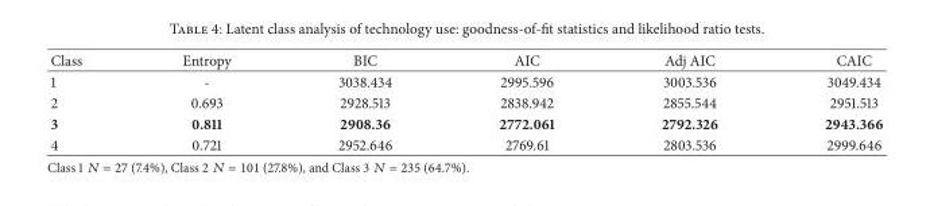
<table><thead><tr><td>Class</td><td>Entropy</td><td>BIC</td><td>AIC</td><td>Adj AIC</td><td>CAIC</td></tr></thead><tbody><tr><td>1</td><td>-</td><td>3038.434</td><td>2995.596</td><td>3003.536</td><td>3049.434</td></tr><tr><td>2</td><td>0.693</td><td>2928.513</td><td>2838.942</td><td>2855.544</td><td>2951.513</td></tr><tr><td>3</td><td>0.811</td><td>2908.36</td><td>2772.061</td><td>2792.326</td><td>2943.366</td></tr><tr><td>4</td><td>0.721</td><td>2952.646</td><td>2769.61</td><td>2803.536</td><td>2999.646</td></tr></tbody></table>